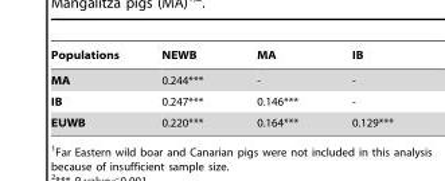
<table><thead><tr><td>Populations</td><td>NEWB</td><td>MA</td><td>IB</td></tr></thead><tbody><tr><td>MA</td><td>0.244***</td><td>-</td><td>-</td></tr><tr><td>IB</td><td>0.247***</td><td>0.146***</td><td>-</td></tr><tr><td>EUWB</td><td>0.220***</td><td>0.164***</td><td>0.129***</td></tr></tbody></table>